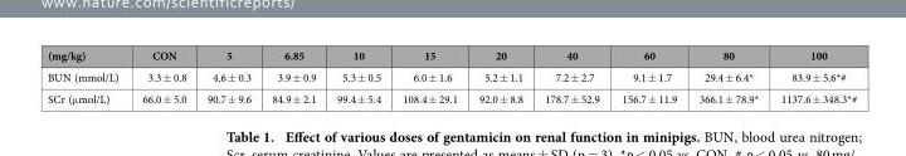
<table><thead><tr><td>(mg/kg)</td><td>CON</td><td>5</td><td>6.85</td><td>10</td><td>15</td><td>20</td><td>40</td><td>60</td><td>80</td><td>100</td></tr></thead><tbody><tr><td>BUN (mmol/L)</td><td>3.3 ± 0.8</td><td>4.6 ± 0.3</td><td>3.9 ± 0.9</td><td>5.3 ± 0.5</td><td>6.0 ± 1.6</td><td>5.2 ± 1.1</td><td>7.2 ± 2.7</td><td>9.1 ± 1.7</td><td>29.4 ± 6.4*</td><td>83.9 ± 5.6*#</td></tr><tr><td>SCr (μ mol/L)</td><td>66.0 ± 5.0</td><td>90.7 ± 9.6</td><td>84.9 ± 2.1</td><td>99.4 ± 5.4</td><td>108.4 ± 29.1</td><td>92.0 ± 8.8</td><td>178.7 ± 52.9</td><td>156.7 ± 11.9</td><td>366.1 ± 78.9*</td><td>1137.6 ± 348.3*#</td></tr></tbody></table>